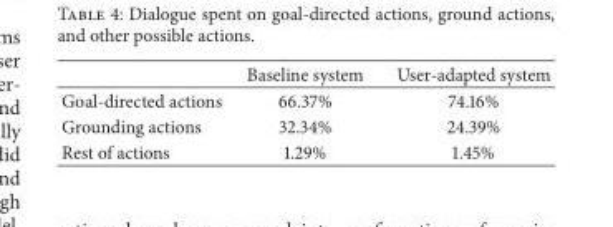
<table><thead><tr><td></td><td>Baseline system</td><td>User-adapted system</td></tr></thead><tbody><tr><td>Goal-directed actions</td><td>66.37%</td><td>74.16%</td></tr><tr><td>Grounding actions</td><td>32.34%</td><td>24.39%</td></tr><tr><td>Rest of actions</td><td>1.29%</td><td>1.45%</td></tr></tbody></table>